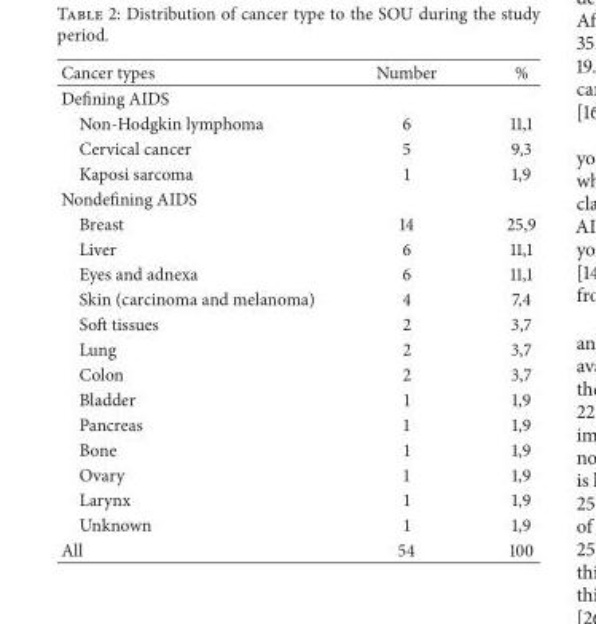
<table><thead><tr><td>Cancer types</td><td>Number</td><td>%</td></tr></thead><tbody><tr><td colspan="3">Defining AIDS</td></tr><tr><td>Non-Hodgkin lymphoma</td><td>6</td><td>11,1</td></tr><tr><td>Cervical cancer</td><td>5</td><td>9,3</td></tr><tr><td>Kaposi sarcoma</td><td>1</td><td>1,9</td></tr><tr><td colspan="3">Nondefining AIDS</td></tr><tr><td>Breast</td><td>14</td><td>25,9</td></tr><tr><td>Liver</td><td>6</td><td>11,1</td></tr><tr><td>Eyes and adnexa</td><td>6</td><td>11,1</td></tr><tr><td>Skin (carcinoma and melanoma)</td><td>4</td><td>7,4</td></tr><tr><td>Soft tissues</td><td>2</td><td>3,7</td></tr><tr><td>Lung</td><td>2</td><td>3,7</td></tr><tr><td>Colon</td><td>2</td><td>3,7</td></tr><tr><td>Bladder</td><td>1</td><td>1,9</td></tr><tr><td>Pancreas</td><td>1</td><td>1,9</td></tr><tr><td>Bone</td><td>1</td><td>1,9</td></tr><tr><td>Ovary</td><td>1</td><td>1,9</td></tr><tr><td>Larynx</td><td>1</td><td>1,9</td></tr><tr><td>Unknown</td><td>1</td><td>1,9</td></tr><tr><td>All</td><td>54</td><td>100</td></tr></tbody></table>